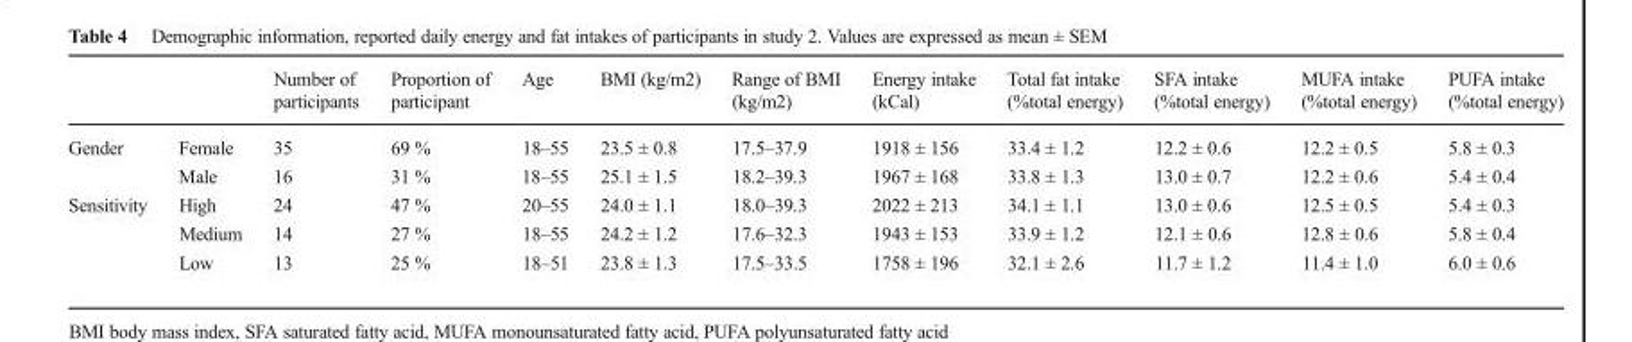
<table><thead><tr><td></td><td></td><td>Number of participants</td><td>Proportion of participant</td><td>Age</td><td>BMI (kg/m2)</td><td>Range of BMI (kg/m2)</td><td>Energy intake (kCal)</td><td>Total fat intake (%total energy)</td><td>SFA intake (%total energy)</td><td>MUFA intake (%total energy)</td><td>PUFA intake (%total energy)</td></tr></thead><tbody><tr><td rowspan="2">Gender</td><td>Female</td><td>35</td><td>69 %</td><td>18–55</td><td>23.5 ± 0.8</td><td>17.5–37.9</td><td>1918 ± 156</td><td>33.4 ± 1.2</td><td>12.2 ± 0.6</td><td>12.2 ± 0.5</td><td>5.8 ± 0.3</td></tr><tr><td>Male</td><td>16</td><td>31 %</td><td>18–55</td><td>25.1 ± 1.5</td><td>18.2–39.3</td><td>1967 ± 168</td><td>33.8 ± 1.3</td><td>13.0 ± 0.7</td><td>12.2 ± 0.6</td><td>5.4 ± 0.4</td></tr><tr><td rowspan="3">Sensitivity</td><td>High</td><td>24</td><td>47 %</td><td>20–55</td><td>24.0 ± 1.1</td><td>18.0–39.3</td><td>2022 ± 213</td><td>34.1 ± 1.1</td><td>13.0 ± 0.6</td><td>12.5 ± 0.5</td><td>5.4 ± 0.3</td></tr><tr><td>Medium</td><td>14</td><td>27 %</td><td>18–55</td><td>24.2 ± 1.2</td><td>17.6–32.3</td><td>1943 ± 153</td><td>33.9 ± 1.2</td><td>12.1 ± 0.6</td><td>12.8 ± 0.6</td><td>5.8 ± 0.4</td></tr><tr><td>Low</td><td>13</td><td>25 %</td><td>18–51</td><td>23.8 ± 1.3</td><td>17.5–33.5</td><td>1758 ± 196</td><td>32.1 ± 2.6</td><td>11.7 ± 1.2</td><td>11.4 ± 1.0</td><td>6.0 ± 0.6</td></tr></tbody></table>